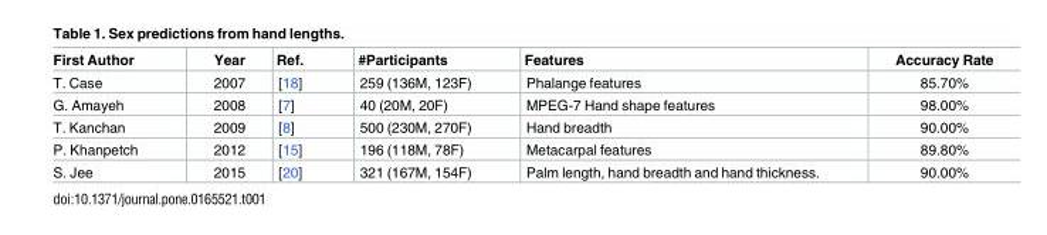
<table><thead><tr><td>First Author</td><td>Year</td><td>Ref.</td><td>#Participants</td><td>Features</td><td>Accuracy Rate</td></tr></thead><tbody><tr><td>T. Case</td><td>2007</td><td>[18]</td><td>259 (136M, 123F)</td><td>Phalange features</td><td>85.70%</td></tr><tr><td>G. Amayeh</td><td>2008</td><td>[7]</td><td>40 (20M, 20F)</td><td>MPEG-7 Hand shape features</td><td>98.00%</td></tr><tr><td>T. Kanchan</td><td>2009</td><td>[8]</td><td>500 (230M, 270F)</td><td>Hand breadth</td><td>90.00%</td></tr><tr><td>P. Khanpetch</td><td>2012</td><td>[15]</td><td>196 (118M, 78F)</td><td>Metacarpal features</td><td>89.80%</td></tr><tr><td>S. Jee</td><td>2015</td><td>[20]</td><td>321 (167M, 154F)</td><td>Palm length, hand breadth and hand thickness.</td><td>90.00%</td></tr></tbody></table>